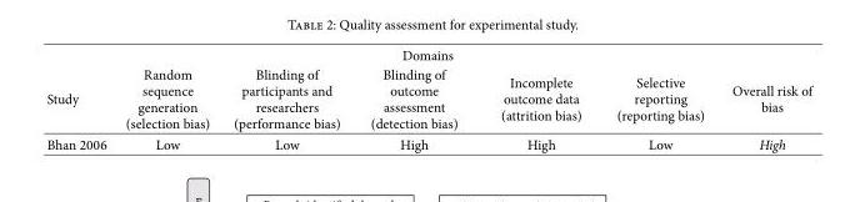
<table><thead><tr><td rowspan="2">Study</td><td colspan="6">Domains</td></tr><tr><td>Random sequence generation (selection bias)</td><td>Blinding of participants and researchers (performance bias)</td><td>Blinding of outcome assessment (detection bias)</td><td>Incomplete outcome data (attrition bias)</td><td>Selective reporting (reporting bias)</td><td>Overall risk of bias</td></tr></thead><tbody><tr><td>Bhan 2006</td><td>Low</td><td>Low</td><td>High</td><td>High</td><td>Low</td><td>High</td></tr></tbody></table>